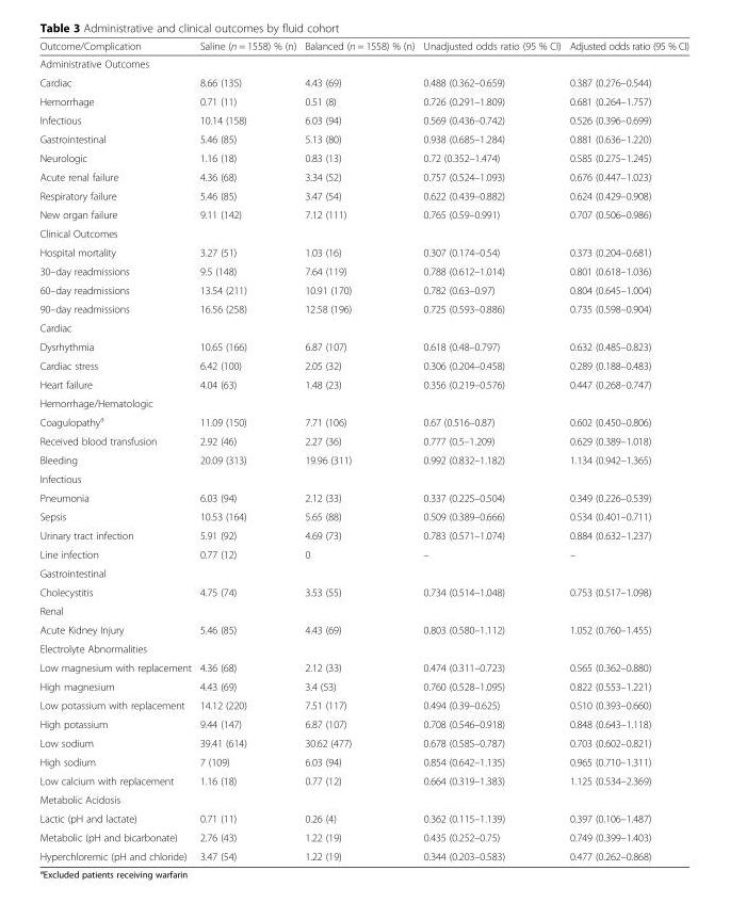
<table><thead><tr><td>Outcome/Complication</td><td>Saline (n = 1558) % (n)</td><td>Balanced (n = 1558) % (n)</td><td>Unadjusted odds ratio (95 % CI)</td><td>Adjusted odds ratio (95 % CI)</td></tr></thead><tbody><tr><td colspan="5">Administrative Outcomes</td></tr><tr><td>Cardiac</td><td>8.66 (135)</td><td>4.43 (69)</td><td>0.488 (0.362–0.659)</td><td>0.387 (0.276–0.544)</td></tr><tr><td>Hemorrhage</td><td>0.71 (11)</td><td>0.51 (8)</td><td>0.726 (0.291–1.809)</td><td>0.681 (0.264–1.757)</td></tr><tr><td>Infectious</td><td>10.14 (158)</td><td>6.03 (94)</td><td>0.569 (0.436–0.742)</td><td>0.526 (0.396–0.699)</td></tr><tr><td>Gastrointestinal</td><td>5.46 (85)</td><td>5.13 (80)</td><td>0.938 (0.685–1.284)</td><td>0.881 (0.636–1.220)</td></tr><tr><td>Neurologic</td><td>1.16 (18)</td><td>0.83 (13)</td><td>0.72 (0.352–1.474)</td><td>0.585 (0.275–1.245)</td></tr><tr><td>Acute renal failure</td><td>4.36 (68)</td><td>3.34 (52)</td><td>0.757 (0.524–1.093)</td><td>0.676 (0.447–1.023)</td></tr><tr><td>Respiratory failure</td><td>5.46 (85)</td><td>3.47 (54)</td><td>0.622 (0.439–0.882)</td><td>0.624 (0.429–0.908)</td></tr><tr><td>New organ failure</td><td>9.11 (142)</td><td>7.12 (111)</td><td>0.765 (0.59–0.991)</td><td>0.707 (0.506–0.986)</td></tr><tr><td colspan="5">Clinical Outcomes</td></tr><tr><td>Hospital mortality</td><td>3.27 (51)</td><td>1.03 (16)</td><td>0.307 (0.174–0.54)</td><td>0.373 (0.204–0.681)</td></tr><tr><td>30–day readmissions</td><td>9.5 (148)</td><td>7.64 (119)</td><td>0.788 (0.612–1.014)</td><td>0.801 (0.618–1.036)</td></tr><tr><td>60–day readmissions</td><td>13.54 (211)</td><td>10.91 (170)</td><td>0.782 (0.63–0.97)</td><td>0.804 (0.645–1.004)</td></tr><tr><td>90–day readmissions</td><td>16.56 (258)</td><td>12.58 (196)</td><td>0.725 (0.593–0.886)</td><td>0.735 (0.598–0.904)</td></tr><tr><td colspan="5">Cardiac</td></tr><tr><td>Dysrhythmia</td><td>10.65 (166)</td><td>6.87 (107)</td><td>0.618 (0.48–0.797)</td><td>0.632 (0.485–0.823)</td></tr><tr><td>Cardiac stress</td><td>6.42 (100)</td><td>2.05 (32)</td><td>0.306 (0.204–0.458)</td><td>0.289 (0.188–0.483)</td></tr><tr><td>Heart failure</td><td>4.04 (63)</td><td>1.48 (23)</td><td>0.356 (0.219–0.576)</td><td>0.447 (0.268–0.747)</td></tr><tr><td colspan="5">Hemorrhage/Hematologic</td></tr><tr><td>Coagulopathy<sup>a</sup></td><td>11.09 (150)</td><td>7.71 (106)</td><td>0.67 (0.516–0.87)</td><td>0.602 (0.450–0.806)</td></tr><tr><td>Received blood transfusion</td><td>2.92 (46)</td><td>2.27 (36)</td><td>0.777 (0.5–1.209)</td><td>0.629 (0.389–1.018)</td></tr><tr><td>Bleeding</td><td>20.09 (313)</td><td>19.96 (311)</td><td>0.992 (0.832–1.182)</td><td>1.134 (0.942–1.365)</td></tr><tr><td colspan="5">Infectious</td></tr><tr><td>Pneumonia</td><td>6.03 (94)</td><td>2.12 (33)</td><td>0.337 (0.225–0.504)</td><td>0.349 (0.226–0.539)</td></tr><tr><td>Sepsis</td><td>10.53 (164)</td><td>5.65 (88)</td><td>0.509 (0.389–0.666)</td><td>0.534 (0.401–0.711)</td></tr><tr><td>Urinary tract infection</td><td>5.91 (92)</td><td>4.69 (73)</td><td>0.783 (0.571–1.074)</td><td>0.884 (0.632–1.237)</td></tr><tr><td>Line infection</td><td>0.77 (12)</td><td>0</td><td>–</td><td>–</td></tr><tr><td colspan="5">Gastrointestinal</td></tr><tr><td>Cholecystitis</td><td>4.75 (74)</td><td>3.53 (55)</td><td>0.734 (0.514–1.048)</td><td>0.753 (0.517–1.098)</td></tr><tr><td colspan="5">Renal</td></tr><tr><td>Acute Kidney Injury</td><td>5.46 (85)</td><td>4.43 (69)</td><td>0.803 (0.580–1.112)</td><td>1.052 (0.760–1.455)</td></tr><tr><td colspan="5">Electrolyte Abnormalities</td></tr><tr><td>Low magnesium with replacement</td><td>4.36 (68)</td><td>2.12 (33)</td><td>0.474 (0.311–0.723)</td><td>0.565 (0.362–0.880)</td></tr><tr><td>High magnesium</td><td>4.43 (69)</td><td>3.4 (53)</td><td>0.760 (0.528–1.095)</td><td>0.822 (0.553–1.221)</td></tr><tr><td>Low potassium with replacement</td><td>14.12 (220)</td><td>7.51 (117)</td><td>0.494 (0.39–0.625)</td><td>0.510 (0.393–0.660)</td></tr><tr><td>High potassium</td><td>9.44 (147)</td><td>6.87 (107)</td><td>0.708 (0.546–0.918)</td><td>0.848 (0.643–1.118)</td></tr><tr><td>Low sodium</td><td>39.41 (614)</td><td>30.62 (477)</td><td>0.678 (0.585–0.787)</td><td>0.703 (0.602–0.821)</td></tr><tr><td>High sodium</td><td>7 (109)</td><td>6.03 (94)</td><td>0.854 (0.642–1.135)</td><td>0.965 (0.710–1.311)</td></tr><tr><td>Low calcium with replacement</td><td>1.16 (18)</td><td>0.77 (12)</td><td>0.664 (0.319–1.383)</td><td>1.125 (0.534–2.369)</td></tr><tr><td colspan="5">Metabolic Acidosis</td></tr><tr><td>Lactic (pH and lactate)</td><td>0.71 (11)</td><td>0.26 (4)</td><td>0.362 (0.115–1.139)</td><td>0.397 (0.106–1.487)</td></tr><tr><td>Metabolic (pH and bicarbonate)</td><td>2.76 (43)</td><td>1.22 (19)</td><td>0.435 (0.252–0.75)</td><td>0.749 (0.399–1.403)</td></tr><tr><td>Hyperchloremic (pH and chloride)</td><td>3.47 (54)</td><td>1.22 (19)</td><td>0.344 (0.203–0.583)</td><td>0.477 (0.262–0.868)</td></tr></tbody></table>